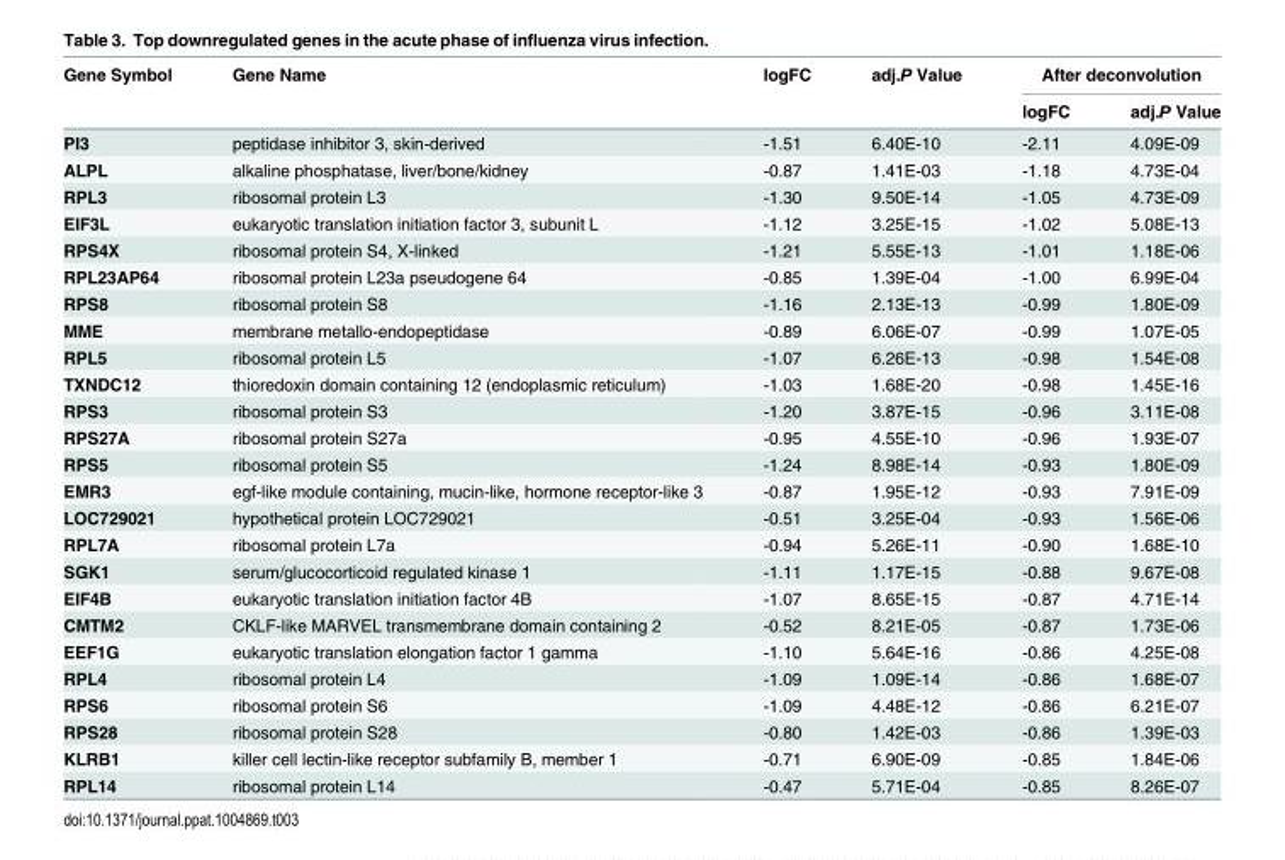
<table><thead><tr><td rowspan="2">Gene Symbol</td><td rowspan="2">Gene Name</td><td rowspan="2">logFC</td><td rowspan="2">adj.P Value</td><td colspan="2">After deconvolution</td></tr><tr><td>logFC</td><td>adj.P Value</td></tr></thead><tbody><tr><td>PI3</td><td>peptidase inhibitor 3, skin-derived</td><td>-1.51</td><td>6.40E-10</td><td>-2.11</td><td>4.09E-09</td></tr><tr><td>ALPL</td><td>alkaline phosphatase, liver/bone/kidney</td><td>-0.87</td><td>1.41E-03</td><td>-1.18</td><td>4.73E-04</td></tr><tr><td>RPL3</td><td>ribosomal protein L3</td><td>-1.30</td><td>9.50E-14</td><td>-1.05</td><td>4.73E-09</td></tr><tr><td>EIF3L</td><td>eukaryotic translation initiation factor 3, subunit L</td><td>-1.12</td><td>3.25E-15</td><td>-1.02</td><td>5.08E-13</td></tr><tr><td>RPS4X</td><td>ribosomal protein S4, X-linked</td><td>-1.21</td><td>5.55E-13</td><td>-1.01</td><td>1.18E-06</td></tr><tr><td>RPL23AP64</td><td>ribosomal protein L23a pseudogene 64</td><td>-0.85</td><td>1.39E-04</td><td>-1.00</td><td>6.99E-04</td></tr><tr><td>RPS8</td><td>ribosomal protein S8</td><td>-1.16</td><td>2.13E-13</td><td>-0.99</td><td>1.80E-09</td></tr><tr><td>MME</td><td>membrane metallo-endopeptidase</td><td>-0.89</td><td>6.06E-07</td><td>-0.99</td><td>1.07E-05</td></tr><tr><td>RPL5</td><td>ribosomal protein L5</td><td>-1.07</td><td>6.26E-13</td><td>-0.98</td><td>1.54E-08</td></tr><tr><td>TXNDC12</td><td>thioredoxin domain containing 12 (endoplasmic reticulum)</td><td>-1.03</td><td>1.68E-20</td><td>-0.98</td><td>1.45E-16</td></tr><tr><td>RPS3</td><td>ribosomal protein S3</td><td>-1.20</td><td>3.87E-15</td><td>-0.96</td><td>3.11E-08</td></tr><tr><td>RPS27A</td><td>ribosomal protein S27a</td><td>-0.95</td><td>4.55E-10</td><td>-0.96</td><td>1.93E-07</td></tr><tr><td>RPS5</td><td>ribosomal protein S5</td><td>-1.24</td><td>8.98E-14</td><td>-0.93</td><td>1.80E-09</td></tr><tr><td>EMR3</td><td>egf-like module containing, mucin-like, hormone receptor-like 3</td><td>-0.87</td><td>1.95E-12</td><td>-0.93</td><td>7.91E-09</td></tr><tr><td>LOC729021</td><td>hypothetical protein LOC729021</td><td>-0.51</td><td>3.25E-04</td><td>-0.93</td><td>1.56E-06</td></tr><tr><td>RPL7A</td><td>ribosomal protein L7a</td><td>-0.94</td><td>5.26E-11</td><td>-0.90</td><td>1.68E-10</td></tr><tr><td>SGK1</td><td>serum/glucocorticoid regulated kinase 1</td><td>-1.11</td><td>1.17E-15</td><td>-0.88</td><td>9.67E-08</td></tr><tr><td>EIF4B</td><td>eukaryotic translation initiation factor 4B</td><td>-1.07</td><td>8.65E-15</td><td>-0.87</td><td>4.71E-14</td></tr><tr><td>CMTM2</td><td>CKLF-like MARVEL transmembrane domain containing 2</td><td>-0.52</td><td>8.21E-05</td><td>-0.87</td><td>1.73E-06</td></tr><tr><td>EEF1G</td><td>eukaryotic translation elongation factor 1 gamma</td><td>-1.10</td><td>5.64E-16</td><td>-0.86</td><td>4.25E-08</td></tr><tr><td>RPL4</td><td>ribosomal protein L4</td><td>-1.09</td><td>1.09E-14</td><td>-0.86</td><td>1.68E-07</td></tr><tr><td>RPS6</td><td>ribosomal protein S6</td><td>-1.09</td><td>4.48E-12</td><td>-0.86</td><td>6.21E-07</td></tr><tr><td>RPS28</td><td>ribosomal protein S28</td><td>-0.80</td><td>1.42E-03</td><td>-0.86</td><td>1.39E-03</td></tr><tr><td>KLRB1</td><td>killer cell lectin-like receptor subfamily B, member 1</td><td>-0.71</td><td>6.90E-09</td><td>-0.85</td><td>1.84E-06</td></tr><tr><td>RPL14</td><td>ribosomal protein L14</td><td>-0.47</td><td>5.71E-04</td><td>-0.85</td><td>8.26E-07</td></tr></tbody></table>